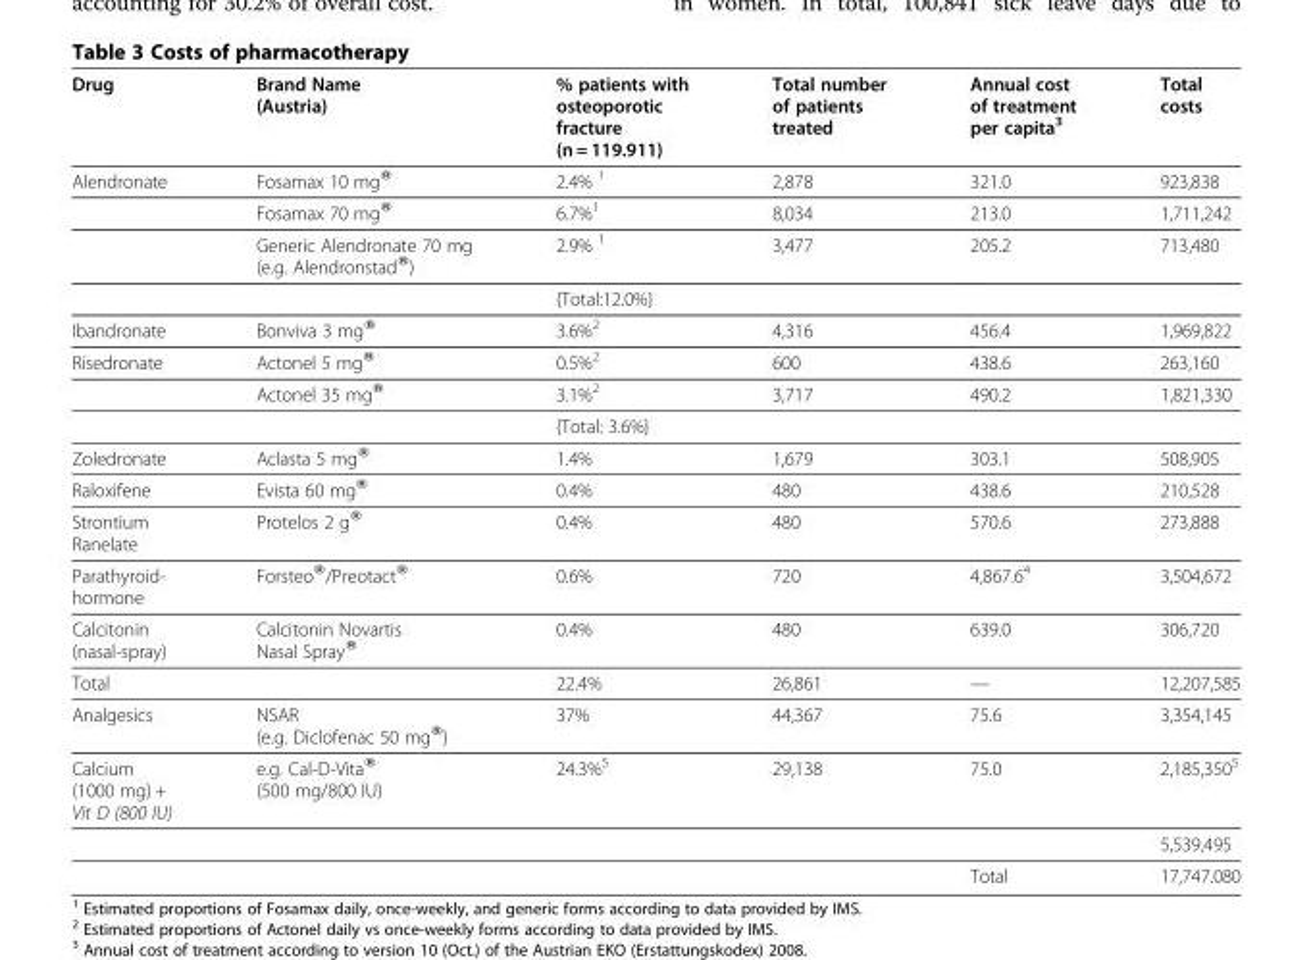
<table><thead><tr><td>Drug</td><td>Brand Name (Austria)</td><td>% patients with osteoporotic fracture (n = 119.911)</td><td>Total number of patients treated</td><td>Annual cost of treatment per capita<sup>3</sup></td><td>Total costs</td></tr></thead><tbody><tr><td rowspan="4">Alendronate</td><td>Fosamax 10 mg®</td><td>2.4% <sup>1</sup></td><td>2,878</td><td>321.0</td><td>923,838</td></tr><tr><td>Fosamax 70 mg®</td><td>6.7%<sup>1</sup></td><td>8,034</td><td>213.0</td><td>1,711,242</td></tr><tr><td>Generic Alendronate 70 mg (e.g. Alendronstad®)</td><td>2.9% <sup>1</sup></td><td>3,477</td><td>205.2</td><td>713,480</td></tr><tr><td></td><td>{Total:12.0%}</td><td></td><td></td><td></td></tr><tr><td>Ibandronate</td><td>Bonviva 3 mg®</td><td>3.6%<sup>2</sup></td><td>4,316</td><td>456.4</td><td>1,969,822</td></tr><tr><td rowspan="3">Risedronate</td><td>Actonel 5 mg®</td><td>0.5%<sup>2</sup></td><td>600</td><td>438.6</td><td>263,160</td></tr><tr><td>Actonel 35 mg®</td><td>3.1%<sup>2</sup></td><td>3,717</td><td>490.2</td><td>1,821,330</td></tr><tr><td></td><td>{Total: 3.6%}</td><td></td><td></td><td></td></tr><tr><td>Zoledronate</td><td>Aclasta 5 mg®</td><td>1.4%</td><td>1,679</td><td>303.1</td><td>508,905</td></tr><tr><td>Raloxifene</td><td>Evista 60 mg®</td><td>0.4%</td><td>480</td><td>438.6</td><td>210,528</td></tr><tr><td>Strontium Ranelate</td><td>Protelos 2 g®</td><td>0.4%</td><td>480</td><td>570.6</td><td>273,888</td></tr><tr><td>Parathyroid- hormone</td><td>Forsteo®/Preotact®</td><td>0.6%</td><td>720</td><td>4,867.6<sup>4</sup></td><td>3,504,672</td></tr><tr><td>Calcitonin (nasal-spray)</td><td>Calcitonin Novartis Nasal Spray®</td><td>0.4%</td><td>480</td><td>639.0</td><td>306,720</td></tr><tr><td>Total</td><td></td><td>22.4%</td><td>26,861</td><td>—</td><td>12,207,585</td></tr><tr><td>Analgesics</td><td>NSAR (e.g. Diclofenac 50 mg®)</td><td>37%</td><td>44,367</td><td>75.6</td><td>3,354,145</td></tr><tr><td rowspan="3">Calcium (1000 mg) + Vit D (800 IU)</td><td>e.g. Cal-D-Vita® (500 mg/800 IU)</td><td>24.3%<sup>5</sup></td><td>29,138</td><td>75.0</td><td>2,185,350<sup>5</sup></td></tr><tr><td></td><td></td><td></td><td></td><td>5,539,495</td></tr><tr><td></td><td></td><td></td><td>Total</td><td>17,747.080</td></tr></tbody></table>